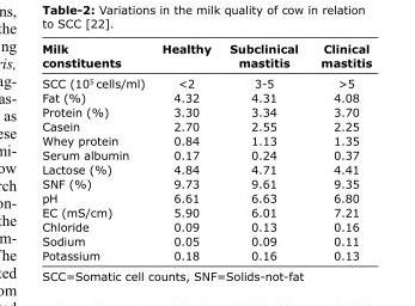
<table><thead><tr><td>Milk constituents</td><td>Healthy</td><td>Subclinical mastitis</td><td>Clinical mastitis</td></tr></thead><tbody><tr><td>SCC (10<sup>5</sup> cells/ml)</td><td>&lt;2</td><td>3-5</td><td>&gt;5</td></tr><tr><td>Fat (%)</td><td>4.32</td><td>4.31</td><td>4.08</td></tr><tr><td>Protein (%)</td><td>3.30</td><td>3.34</td><td>3.70</td></tr><tr><td>Casein</td><td>2.70</td><td>2.55</td><td>2.25</td></tr><tr><td>Whey protein</td><td>0.84</td><td>1.13</td><td>1.35</td></tr><tr><td>Serum albumin</td><td>0.17</td><td>0.24</td><td>0.37</td></tr><tr><td>Lactose (%)</td><td>4.84</td><td>4.71</td><td>4.41</td></tr><tr><td>SNF (%)</td><td>9.73</td><td>9.61</td><td>9.35</td></tr><tr><td>pH</td><td>6.61</td><td>6.63</td><td>6.80</td></tr><tr><td>EC (mS/cm)</td><td>5.90</td><td>6.01</td><td>7.21</td></tr><tr><td>Chloride</td><td>0.09</td><td>0.13</td><td>0.16</td></tr><tr><td>Sodium</td><td>0.05</td><td>0.09</td><td>0.11</td></tr><tr><td>Potassium</td><td>0.18</td><td>0.16</td><td>0.13</td></tr></tbody></table>